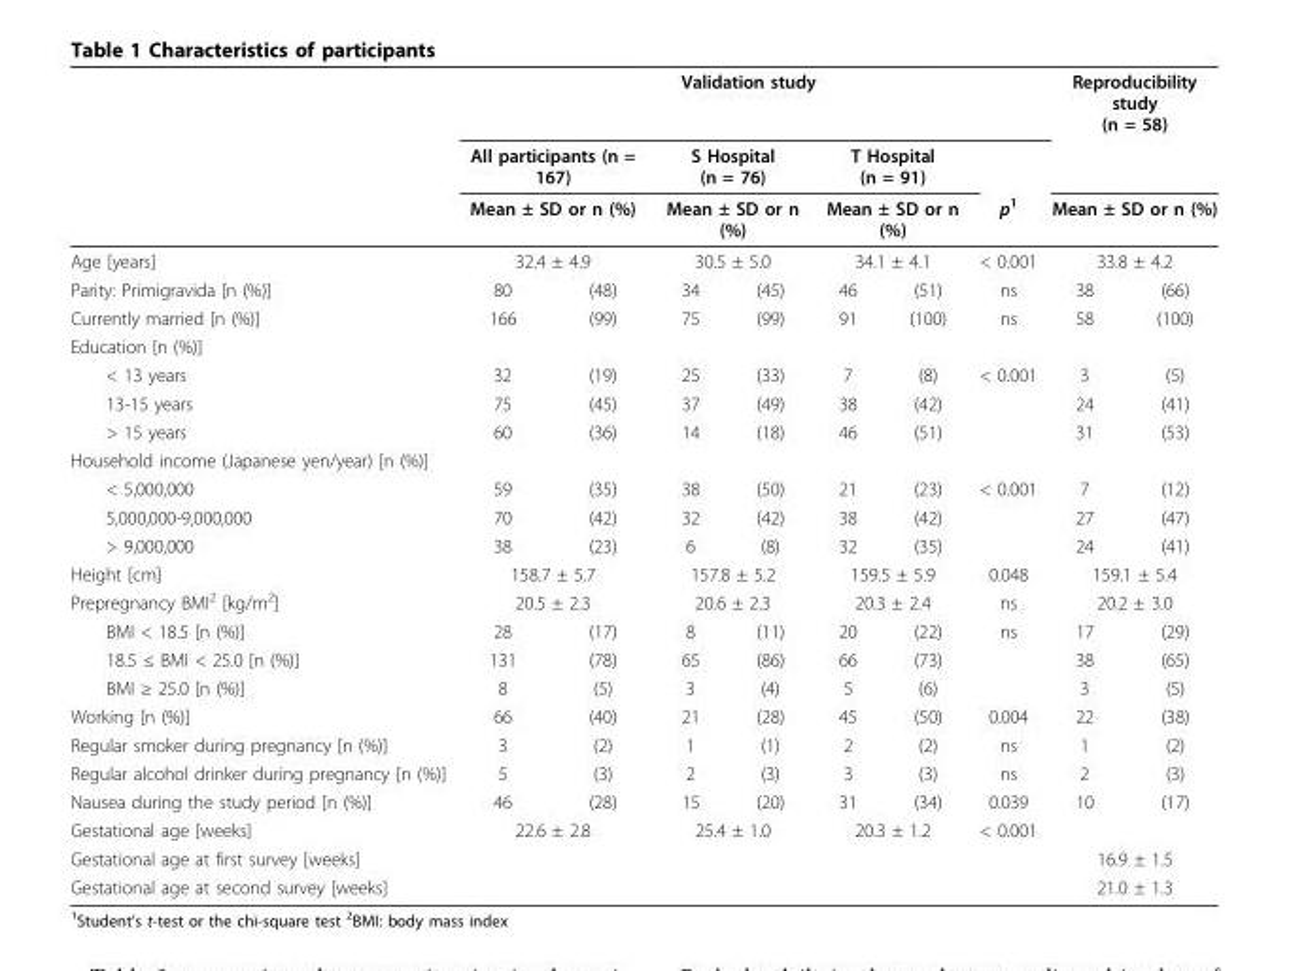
<table><thead><tr><td rowspan="5">Age [years] Parity: Primigravida [n (%)]</td><td colspan="7">Validation study</td><td colspan="2">Reproducibility study (n = 58)</td></tr><tr><td rowspan="3" colspan="2">All participants (n = 167) Mean ± SD or n (%) 32.4 ± 4.9</td><td rowspan="3" colspan="2">S Hospital (n = 76) Mean ± SD or n (%) 30.5 ± 5.0</td><td rowspan="3" colspan="2">T Hospital (n = 91) Mean ± SD or n (%) 34.1 ± 4.1</td><td rowspan="4">p1 &lt; 0.001 ns</td><td></td><td></td></tr><tr><td rowspan="2" colspan="2">Mean ± SD or n (%) 33.8 ± 4.2</td></tr><tr></tr><tr><td>80</td><td>(48)</td><td>34</td><td>(45)</td><td>46</td><td>(51)</td><td>38</td><td>(66)</td></tr></thead><tbody><tr><td>Currently married [n (%)]</td><td>166</td><td>(99)</td><td>75</td><td>(99)</td><td>91</td><td>(100)</td><td>ns</td><td>58</td><td>(100)</td></tr><tr><td colspan="10">Education [n (%)]</td></tr><tr><td>&lt; 13 years</td><td>32</td><td>(19)</td><td>25</td><td>(33)</td><td>7</td><td>(8)</td><td>&lt; 0.001</td><td>3</td><td>(5)</td></tr><tr><td>13-15 years</td><td>75</td><td>(45)</td><td>37</td><td>(49)</td><td>38</td><td>(42)</td><td></td><td>24</td><td>(41)</td></tr><tr><td>&gt; 15 years</td><td>60</td><td>(36)</td><td>14</td><td>(18)</td><td>46</td><td>(51)</td><td></td><td>31</td><td>(53)</td></tr><tr><td colspan="10">Household income (Japanese yen/year) [n (%)]</td></tr><tr><td>&lt; 5,000,000</td><td>59</td><td>(35)</td><td>38</td><td>(50)</td><td>21</td><td>(23)</td><td>&lt; 0.001</td><td>7</td><td>(12)</td></tr><tr><td>5,000,000-9,000,000</td><td>70</td><td>(42)</td><td>32</td><td>(42)</td><td>38</td><td>(42)</td><td></td><td>27</td><td>(47)</td></tr><tr><td>&gt; 9,000,000</td><td>38</td><td>(23)</td><td>6</td><td>(8)</td><td>32</td><td>(35)</td><td></td><td>24</td><td>(41)</td></tr><tr><td>Height [cm]</td><td colspan="2">158.7 ± 5.7</td><td colspan="2">157.8 ± 5.2</td><td colspan="2">159.5 ± 5.9</td><td>0.048</td><td colspan="2">159.1 ± 5.4</td></tr><tr><td>Prepregnancy BMI<sup>2</sup> [kg/m<sup>2</sup>]</td><td colspan="2">20.5 ± 2.3</td><td colspan="2">20.6 ± 2.3</td><td colspan="2">20.3 ± 2.4</td><td>ns</td><td colspan="2">20.2 ± 3.0</td></tr><tr><td>BMI &lt; 18.5 [n (%)]</td><td>28</td><td>(17)</td><td>8</td><td>(11)</td><td>20</td><td>(22)</td><td>ns</td><td>17</td><td>(29)</td></tr><tr><td>18.5 ≤ BMI &lt; 25.0 [n (%)]</td><td>131</td><td>(78)</td><td>65</td><td>(86)</td><td>66</td><td>(73)</td><td></td><td>38</td><td>(65)</td></tr><tr><td>BMI ≥ 25.0 [n (%)]</td><td>8</td><td>(5)</td><td>3</td><td>(4)</td><td>5</td><td>(6)</td><td></td><td>3</td><td>(5)</td></tr><tr><td>Working [n (%)]</td><td>66</td><td>(40)</td><td>21</td><td>(28)</td><td>45</td><td>(50)</td><td>0.004</td><td>22</td><td>(38)</td></tr><tr><td>Regular smoker during pregnancy [n (%)]</td><td>3</td><td>(2)</td><td>1</td><td>(1)</td><td>2</td><td>(2)</td><td>ns</td><td>1</td><td>(2)</td></tr><tr><td>Regular alcohol drinker during pregnancy [n (%)]</td><td>5</td><td>(3)</td><td>2</td><td>(3)</td><td>3</td><td>(3)</td><td>ns</td><td>2</td><td>(3)</td></tr><tr><td>Nausea during the study period [n (%)]</td><td>46</td><td>(28)</td><td>15</td><td>(20)</td><td>31</td><td>(34)</td><td>0.039</td><td>10</td><td>(17)</td></tr><tr><td>Gestational age [weeks]</td><td colspan="2">22.6 ± 2.8</td><td colspan="2">25.4 ± 1.0</td><td colspan="2">20.3 ± 1.2</td><td>&lt; 0.001</td><td></td><td></td></tr><tr><td>Gestational age at first survey [weeks]</td><td></td><td></td><td></td><td></td><td></td><td></td><td></td><td colspan="2">16.9 ± 1.5</td></tr><tr><td>Gestational age at second survey [weeks]</td><td></td><td></td><td></td><td></td><td></td><td></td><td></td><td colspan="2">21.0 ± 1.3</td></tr></tbody></table>